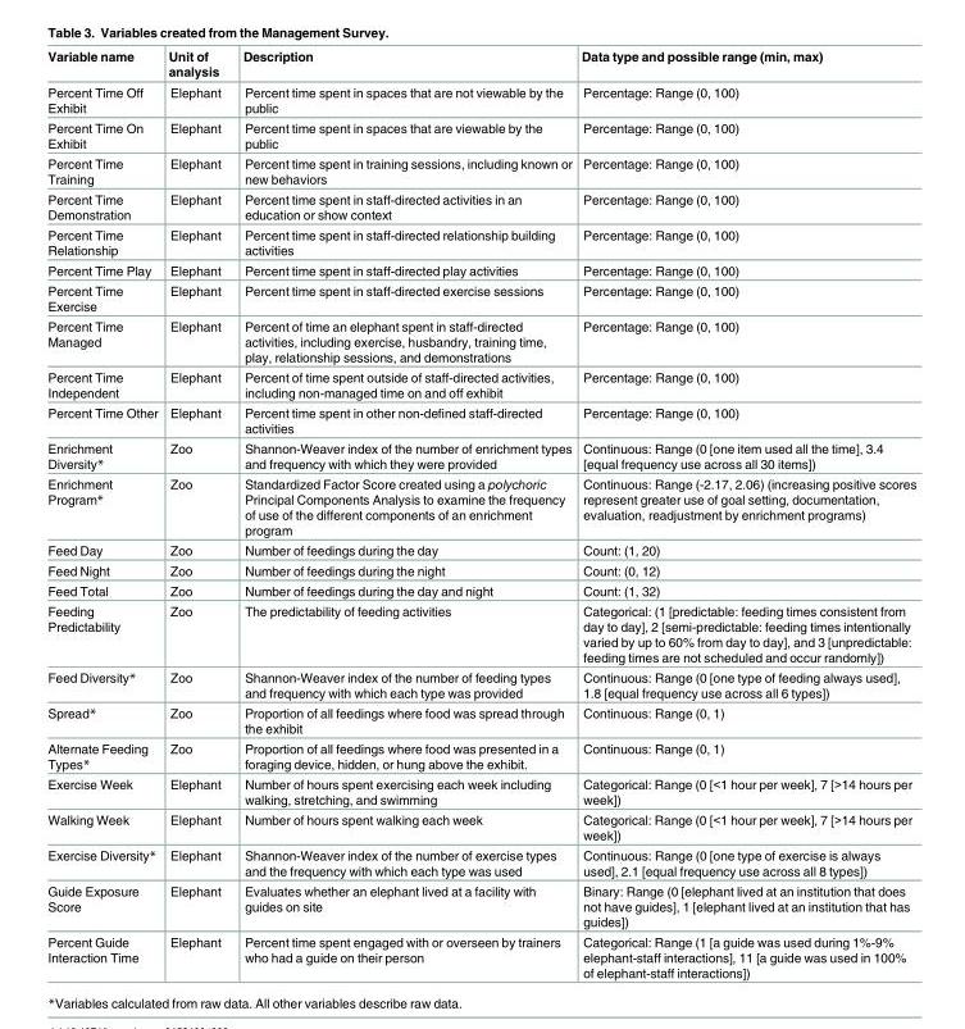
<table><thead><tr><td>Variable name</td><td>Unit of analysis</td><td>Description</td><td>Data type and possible range (min, max)</td></tr></thead><tbody><tr><td>Percent Time Off Exhibit</td><td>Elephant</td><td>Percent time spent in spaces that are not viewable by the public</td><td>Percentage: Range (0, 100)</td></tr><tr><td>Percent Time On Exhibit</td><td>Elephant</td><td>Percent time spent in spaces that are viewable by the public</td><td>Percentage: Range (0, 100)</td></tr><tr><td>Percent Time Training</td><td>Elephant</td><td>Percent time spent in training sessions, including known or new behaviors</td><td>Percentage: Range (0, 100)</td></tr><tr><td>Percent Time Demonstration</td><td>Elephant</td><td>Percent time spent in staff-directed activities in an education or show context</td><td>Percentage: Range (0, 100)</td></tr><tr><td>Percent Time Relationship</td><td>Elephant</td><td>Percent time spent in staff-directed relationship building activities</td><td>Percentage: Range (0, 100)</td></tr><tr><td>Percent Time Play</td><td>Elephant</td><td>Percent time spent in staff-directed play activities</td><td>Percentage: Range (0, 100)</td></tr><tr><td>Percent Time Exercise</td><td>Elephant</td><td>Percent time spent in staff-directed exercise sessions</td><td>Percentage: Range (0, 100)</td></tr><tr><td>Percent Time Managed</td><td>Elephant</td><td>Percent of time an elephant spent in staff-directed activities, including exercise, husbandry, training time, play, relationship sessions, and demonstrations</td><td>Percentage: Range (0, 100)</td></tr><tr><td>Percent Time Independent</td><td>Elephant</td><td>Percent of time spent outside of staff-directed activities, including non-managed time on and off exhibit</td><td>Percentage: Range (0, 100)</td></tr><tr><td>Percent Time Other</td><td>Elephant</td><td>Percent time spent in other non-defined staff-directed activities</td><td>Percentage: Range (0, 100)</td></tr><tr><td>Enrichment Diversity*</td><td>Zoo</td><td>Shannon-Weaver index of the number of enrichment types and frequency with which they were provided</td><td>Continuous: Range (0 [one item used all the time], 3.4 [equal frequency use across all 30 items])</td></tr><tr><td>Enrichment Program*</td><td>Zoo</td><td>Standardized Factor Score created using a polychoric Principal Components Analysis to examine the frequency of use of the different components of an enrichment program</td><td>Continuous: Range (-2.17, 2.06) (increasing positive scores represent greater use of goal setting, documentation, evaluation, readjustment by enrichment programs)</td></tr><tr><td>Feed Day</td><td>Zoo</td><td>Number of feedings during the day</td><td>Count: (1, 20)</td></tr><tr><td>Feed Night</td><td>Zoo</td><td>Number of feedings during the night</td><td>Count: (0, 12)</td></tr><tr><td>Feed Total</td><td>Zoo</td><td>Number of feedings during the day and night</td><td>Count: (1, 32)</td></tr><tr><td>Feeding Predictability</td><td>Zoo</td><td>The predictability of feeding activities</td><td>Categorical: (1 [predictable: feeding times consistent from day to day], 2 [semi-predictable: feeding times intentionally varied by up to 60% from day to day], and 3 [unpredictable: feeding times are not scheduled and occur randomly])</td></tr><tr><td>Feed Diversity*</td><td>Zoo</td><td>Shannon-Weaver index of the number of feeding types and frequency with which each type was provided</td><td>Continuous: Range (0 [one type of feeding always used], 1.8 [equal frequency use across all 6 types])</td></tr><tr><td>Spread*</td><td>Zoo</td><td>Proportion of all feedings where food was spread through the exhibit</td><td>Continuous: Range (0, 1)</td></tr><tr><td>Alternate Feeding Types*</td><td>Zoo</td><td>Proportion of all feedings where food was presented in a foraging device, hidden, or hung above the exhibit.</td><td>Continuous: Range (0, 1)</td></tr><tr><td>Exercise Week</td><td>Elephant</td><td>Number of hours spent exercising each week including walking, stretching, and swimming</td><td>Categorical: Range (0 [&lt;1 hour per week], 7 [&gt;14 hours per week])</td></tr><tr><td>Walking Week</td><td>Elephant</td><td>Number of hours spent walking each week</td><td>Categorical: Range (0 [&lt;1 hour per week], 7 [&gt;14 hours per week])</td></tr><tr><td>Exercise Diversity*</td><td>Elephant</td><td>Shannon-Weaver index of the number of exercise types and the frequency with which each type was used</td><td>Continuous: Range (0 [one type of exercise is always used], 2.1 [equal frequency use across all 8 types])</td></tr><tr><td>Guide Exposure Score</td><td>Elephant</td><td>Evaluates whether an elephant lived at a facility with guides on site</td><td>Binary: Range (0 [elephant lived at an institution that does not have guides], 1 [elephant lived at an institution that has guides])</td></tr><tr><td>Percent Guide Interaction Time</td><td>Elephant</td><td>Percent time spent engaged with or overseen by trainers who had a guide on their person</td><td>Categorical: Range (1 [a guide was used during 1%-9% elephant-staff interactions], 11 [a guide was used in 100% of elephant-staff interactions])</td></tr></tbody></table>